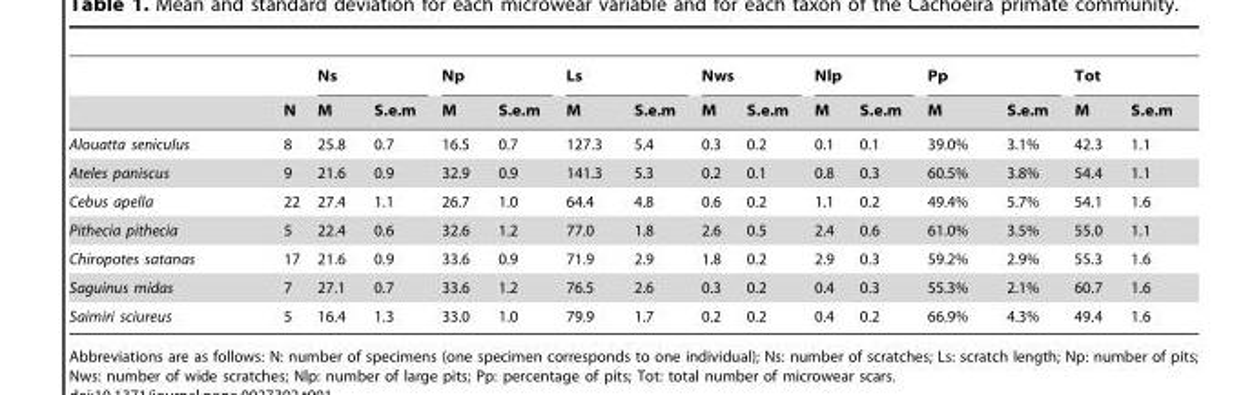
<table><thead><tr><td rowspan="2"></td><td rowspan="2">N</td><td colspan="2">Ns</td><td colspan="2">Np</td><td colspan="2">Ls</td><td colspan="2">Nws</td><td colspan="2">Nlp</td><td colspan="2">Pp</td><td colspan="2">Tot</td></tr><tr><td>M</td><td>S.e.m</td><td>M</td><td>S.e.m</td><td>M</td><td>S.e.m</td><td>M</td><td>S.e.m</td><td>M</td><td>S.e.m</td><td>M</td><td>S.e.m</td><td>M</td><td>S.e.m</td></tr></thead><tbody><tr><td>Alouatta seniculus</td><td>8</td><td>25.8</td><td>0.7</td><td>16.5</td><td>0.7</td><td>127.3</td><td>5.4</td><td>0.3</td><td>0.2</td><td>0.1</td><td>0.1</td><td>39.0%</td><td>3.1%</td><td>42.3</td><td>1.1</td></tr><tr><td>Ateles paniscus</td><td>9</td><td>21.6</td><td>0.9</td><td>32.9</td><td>0.9</td><td>141.3</td><td>5.3</td><td>0.2</td><td>0.1</td><td>0.8</td><td>0.3</td><td>60.5%</td><td>3.8%</td><td>54.4</td><td>1.1</td></tr><tr><td>Cebus apella</td><td>22</td><td>27.4</td><td>1.1</td><td>26.7</td><td>1.0</td><td>64.4</td><td>4.8</td><td>0.6</td><td>0.2</td><td>1.1</td><td>0.2</td><td>49.4%</td><td>5.7%</td><td>54.1</td><td>1.6</td></tr><tr><td>Pithecia pithecia</td><td>5</td><td>22.4</td><td>0.6</td><td>32.6</td><td>1.2</td><td>77.0</td><td>1.8</td><td>2.6</td><td>0.5</td><td>2.4</td><td>0.6</td><td>61.0%</td><td>3.5%</td><td>55.0</td><td>1.1</td></tr><tr><td>Chiropotes satanas</td><td>17</td><td>21.6</td><td>0.9</td><td>33.6</td><td>0.9</td><td>71.9</td><td>2.9</td><td>1.8</td><td>0.2</td><td>2.9</td><td>0.3</td><td>59.2%</td><td>2.9%</td><td>55.3</td><td>1.6</td></tr><tr><td>Saguinus midas</td><td>7</td><td>27.1</td><td>0.7</td><td>33.6</td><td>1.2</td><td>76.5</td><td>2.6</td><td>0.3</td><td>0.2</td><td>0.4</td><td>0.3</td><td>55.3%</td><td>2.1%</td><td>60.7</td><td>1.6</td></tr><tr><td>Saimiri sciureus</td><td>5</td><td>16.4</td><td>1.3</td><td>33.0</td><td>1.0</td><td>79.9</td><td>1.7</td><td>0.2</td><td>0.2</td><td>0.4</td><td>0.2</td><td>66.9%</td><td>4.3%</td><td>49.4</td><td>1.6</td></tr></tbody></table>